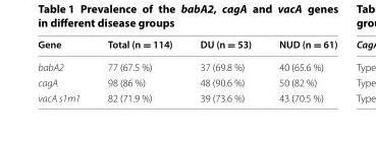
<table><thead><tr><td>Gene</td><td>Total (n = 114)</td><td>DU (n = 53)</td><td>NUD (n = 61)</td></tr></thead><tbody><tr><td>babA2</td><td>77 (67.5 %)</td><td>37 (69.8 %)</td><td>40 (65.6 %)</td></tr><tr><td>cagA</td><td>98 (86 %)</td><td>48 (90.6 %)</td><td>50 (82 %)</td></tr><tr><td>vacA s1m1</td><td>82 (71.9 %)</td><td>39 (73.6 %)</td><td>43 (70.5 %)</td></tr></tbody></table>